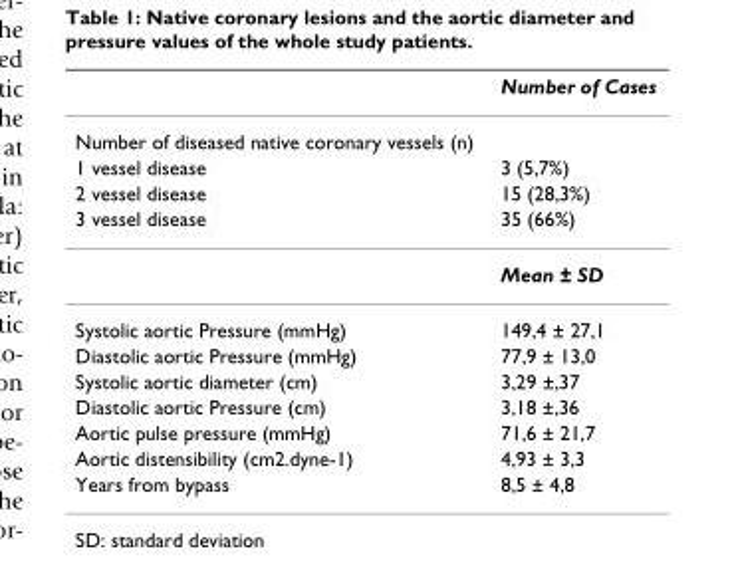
<table><thead><tr><td></td><td>Number of Cases</td></tr></thead><tbody><tr><td colspan="2">Number of diseased native coronary vessels (n)</td></tr><tr><td>1 vessel disease</td><td>3 (5,7%)</td></tr><tr><td>2 vessel disease</td><td>15 (28,3%)</td></tr><tr><td rowspan="2">3 vessel disease</td><td>35 (66%)</td></tr><tr><td>Mean ± SD</td></tr><tr><td>Systolic aortic Pressure (mmHg)</td><td>149,4 ± 27,1</td></tr><tr><td>Diastolic aortic Pressure (mmHg)</td><td>77,9 ± 13,0</td></tr><tr><td>Systolic aortic diameter (cm)</td><td>3,29 ±,37</td></tr><tr><td>Diastolic aortic Pressure (cm)</td><td>3,18 ±,36</td></tr><tr><td>Aortic pulse pressure (mmHg)</td><td>71,6 ± 21,7</td></tr><tr><td>Aortic distensibility (cm2.dyne-1)</td><td>4,93 ± 3,3</td></tr><tr><td>Years from bypass</td><td>8,5 ± 4,8</td></tr></tbody></table>